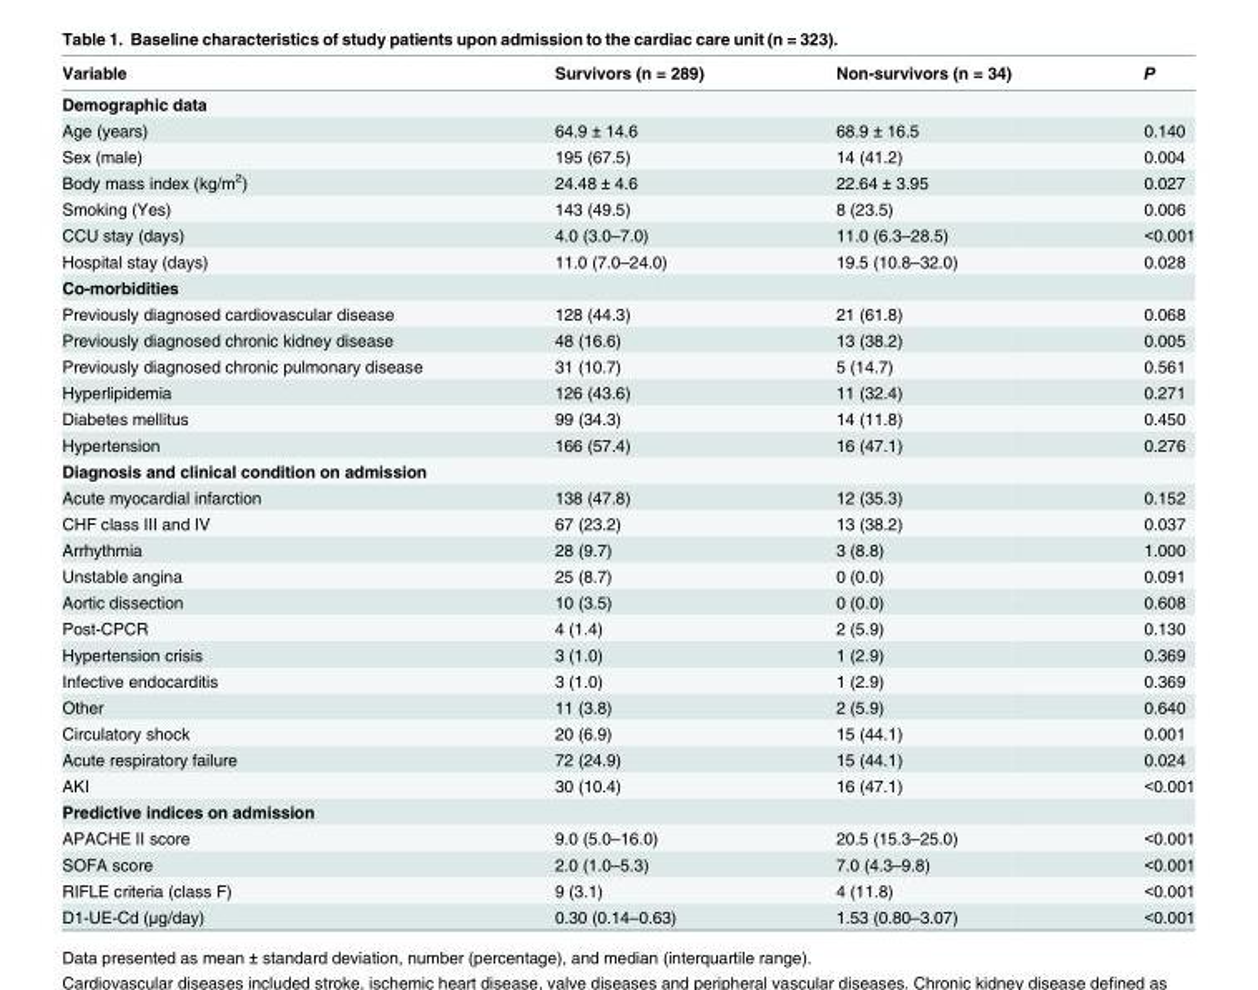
<table><thead><tr><td>Variable</td><td>Survivors (n = 289)</td><td>Non-survivors (n = 34)</td><td>P</td></tr></thead><tbody><tr><td colspan="4">Demographic data</td></tr><tr><td>Age (years)</td><td>64.9 ± 14.6</td><td>68.9 ± 16.5</td><td>0.140</td></tr><tr><td>Sex (male)</td><td>195 (67.5)</td><td>14 (41.2)</td><td>0.004</td></tr><tr><td>Body mass index (kg/m<sup>2</sup>)</td><td>24.48 ± 4.6</td><td>22.64 ± 3.95</td><td>0.027</td></tr><tr><td>Smoking (Yes)</td><td>143 (49.5)</td><td>8 (23.5)</td><td>0.006</td></tr><tr><td>CCU stay (days)</td><td>4.0 (3.0–7.0)</td><td>11.0 (6.3–28.5)</td><td>&lt;0.001</td></tr><tr><td>Hospital stay (days)</td><td>11.0 (7.0–24.0)</td><td>19.5 (10.8–32.0)</td><td>0.028</td></tr><tr><td colspan="4">Co-morbidities</td></tr><tr><td>Previously diagnosed cardiovascular disease</td><td>128 (44.3)</td><td>21 (61.8)</td><td>0.068</td></tr><tr><td>Previously diagnosed chronic kidney disease</td><td>48 (16.6)</td><td>13 (38.2)</td><td>0.005</td></tr><tr><td>Previously diagnosed chronic pulmonary disease</td><td>31 (10.7)</td><td>5 (14.7)</td><td>0.561</td></tr><tr><td>Hyperlipidemia</td><td>126 (43.6)</td><td>11 (32.4)</td><td>0.271</td></tr><tr><td>Diabetes mellitus</td><td>99 (34.3)</td><td>14 (11.8)</td><td>0.450</td></tr><tr><td>Hypertension</td><td>166 (57.4)</td><td>16 (47.1)</td><td>0.276</td></tr><tr><td colspan="4">Diagnosis and clinical condition on admission</td></tr><tr><td>Acute myocardial infarction</td><td>138 (47.8)</td><td>12 (35.3)</td><td>0.152</td></tr><tr><td>CHF class III and IV</td><td>67 (23.2)</td><td>13 (38.2)</td><td>0.037</td></tr><tr><td>Arrhythmia</td><td>28 (9.7)</td><td>3 (8.8)</td><td>1.000</td></tr><tr><td>Unstable angina</td><td>25 (8.7)</td><td>0 (0.0)</td><td>0.091</td></tr><tr><td>Aortic dissection</td><td>10 (3.5)</td><td>0 (0.0)</td><td>0.608</td></tr><tr><td>Post-CPCR</td><td>4 (1.4)</td><td>2 (5.9)</td><td>0.130</td></tr><tr><td>Hypertension crisis</td><td>3 (1.0)</td><td>1 (2.9)</td><td>0.369</td></tr><tr><td>Infective endocarditis</td><td>3 (1.0)</td><td>1 (2.9)</td><td>0.369</td></tr><tr><td>Other</td><td>11 (3.8)</td><td>2 (5.9)</td><td>0.640</td></tr><tr><td>Circulatory shock</td><td>20 (6.9)</td><td>15 (44.1)</td><td>0.001</td></tr><tr><td>Acute respiratory failure</td><td>72 (24.9)</td><td>15 (44.1)</td><td>0.024</td></tr><tr><td>AKI</td><td>30 (10.4)</td><td>16 (47.1)</td><td>&lt;0.001</td></tr><tr><td colspan="4">Predictive indices on admission</td></tr><tr><td>APACHE II score</td><td>9.0 (5.0–16.0)</td><td>20.5 (15.3–25.0)</td><td>&lt;0.001</td></tr><tr><td>SOFA score</td><td>2.0 (1.0–5.3)</td><td>7.0 (4.3–9.8)</td><td>&lt;0.001</td></tr><tr><td>RIFLE criteria (class F)</td><td>9 (3.1)</td><td>4 (11.8)</td><td>&lt;0.001</td></tr><tr><td>D1-UE-Cd (μg/day)</td><td>0.30 (0.14–0.63)</td><td>1.53 (0.80–3.07)</td><td>&lt;0.001</td></tr></tbody></table>